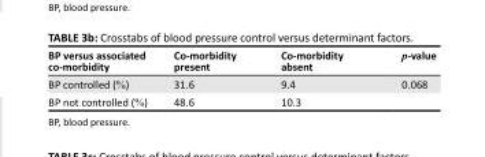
<table><thead><tr><td>BP versus associated co-morbidity</td><td>Co-morbidity present</td><td>Co-morbidity absent</td><td>p-value</td></tr></thead><tbody><tr><td>BP controlled (%)</td><td>31.6</td><td>9.4</td><td>0.068</td></tr><tr><td>BP not controlled (%)</td><td>48.6</td><td>10.3</td><td></td></tr></tbody></table>